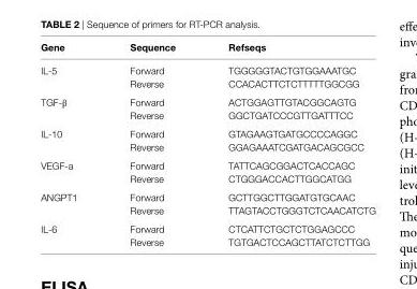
<table><thead><tr><td>gene</td><td>sequence</td><td>refseqs</td></tr></thead><tbody><tr><td rowspan="2">IL-5</td><td>Forward</td><td>TGGGGGTACTGTGGAAATGC</td></tr><tr><td>Reverse</td><td>CCACACTTCTCTTTTTGGCGG</td></tr><tr><td rowspan="2">TGF-β</td><td>Forward</td><td>ACTGGAGTTGTACGGCAGTG</td></tr><tr><td>Reverse</td><td>GGCTGATCCCGTTGATTTCC</td></tr><tr><td rowspan="2">IL-10</td><td>Forward</td><td>GTAGAAGTGATGCCCCAGGC</td></tr><tr><td>Reverse</td><td>GGAGAAATCGATGACAGCGCC</td></tr><tr><td rowspan="2">VEGF-a</td><td>Forward</td><td>TATTCAGCGGACTCACCAGC</td></tr><tr><td>Reverse</td><td>CTGGGACCACTTGGCATGG</td></tr><tr><td rowspan="2">ANGPT1</td><td>Forward</td><td>GCTTGGCTTGGATGTGCAAC</td></tr><tr><td>Reverse</td><td>TTAGTACCTGGGTCTCAACATCTG</td></tr><tr><td rowspan="2">IL-6</td><td>Forward</td><td>CTCATTCTGCTCTGGAGCCC</td></tr><tr><td>Reverse</td><td>TGTGACTCCAGCTTATCTCTTGG</td></tr></tbody></table>